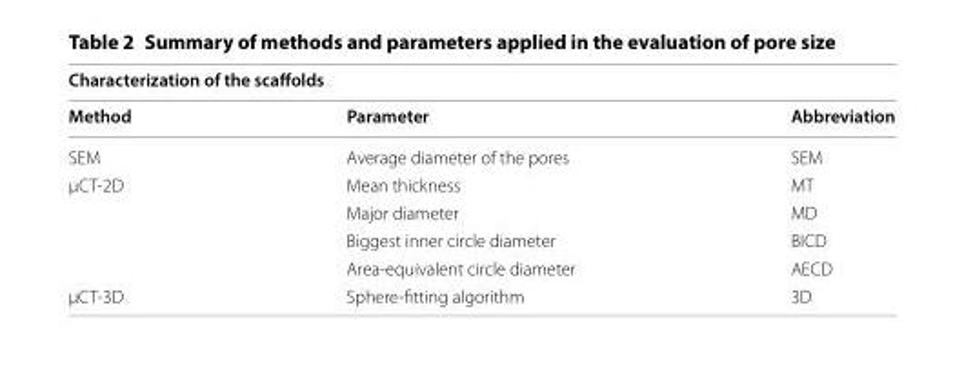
<table><thead><tr><td colspan="3">Characterization of the scaffolds</td></tr><tr><td>Method</td><td>Parameter</td><td>Abbreviation</td></tr></thead><tbody><tr><td>SEM</td><td>Average diameter of the pores</td><td>SEM</td></tr><tr><td rowspan="4">μCT-2D</td><td>Mean thickness</td><td>MT</td></tr><tr><td>Major diameter</td><td>MD</td></tr><tr><td>Biggest inner circle diameter</td><td>BICD</td></tr><tr><td>Area-equivalent circle diameter</td><td>AECD</td></tr><tr><td>μCT-3D</td><td>Sphere-fitting algorithm</td><td>3D</td></tr></tbody></table>